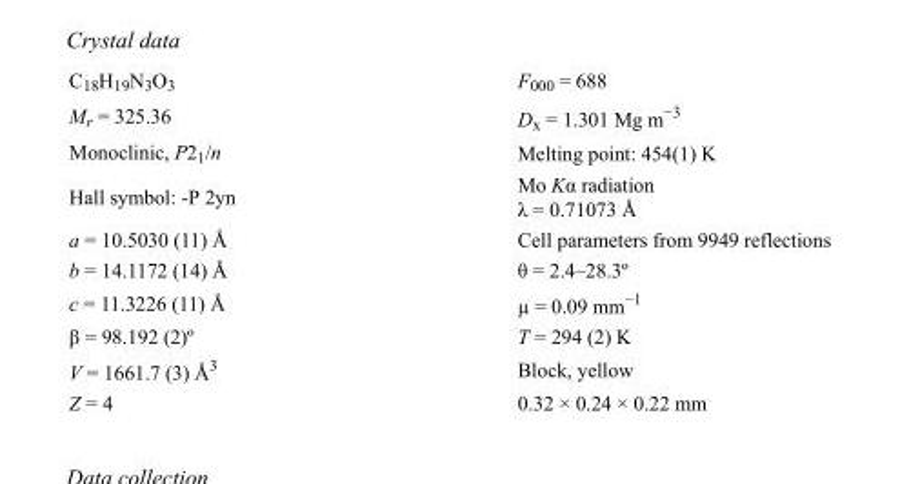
<table><tbody><tr><td>C<sub>18</sub>H<sub>19</sub>N<sub>3</sub>O<sub>3</sub></td><td>F000 = 688</td></tr><tr><td>M<sub>r</sub> = 325.36</td><td>D<sub>x</sub> = 1.301 Mg m<sup>−3</sup></td></tr><tr><td>Monoclinic, P2<sub>1</sub>/n</td><td>Melting point: 454(1) K</td></tr><tr><td>Hall symbol: -P 2yn</td><td>Mo Kα radiation λ = 0.71073 Å</td></tr><tr><td>a = 10.5030 (11) Å</td><td>Cell parameters from 9949 reflections</td></tr><tr><td>b = 14.1172 (14) Å</td><td>θ = 2.4–28.3º</td></tr><tr><td>c = 11.3226 (11) Å</td><td>µ = 0.09 mm<sup>−1</sup></td></tr><tr><td>β = 98.192 (2)º</td><td>T = 294 (2) K</td></tr><tr><td>V = 1661.7 (3) Å<sup>3</sup></td><td>Block, yellow</td></tr><tr><td>Z = 4</td><td>0.32 × 0.24 × 0.22 mm</td></tr></tbody></table>